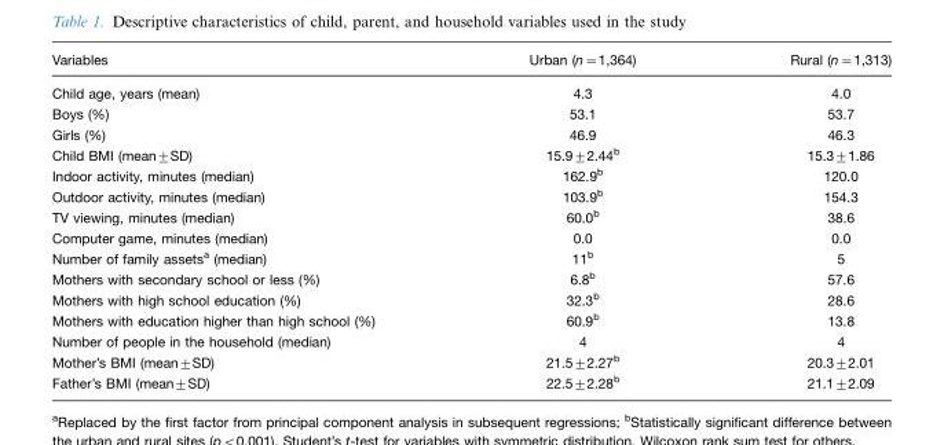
<table><thead><tr><td>Variables</td><td>Urban (n=1,364)</td><td>Rural (n=1,313)</td></tr></thead><tbody><tr><td>Child age, years (mean)</td><td>4.3</td><td>4.0</td></tr><tr><td>Boys (%)</td><td>53.1</td><td>53.7</td></tr><tr><td>Girls (%)</td><td>46.9</td><td>46.3</td></tr><tr><td>Child BMI (mean±SD)</td><td>15.9±2.44<sup>b</sup></td><td>15.3±1.86</td></tr><tr><td>Indoor activity, minutes (median)</td><td>162.9<sup>b</sup></td><td>120.0</td></tr><tr><td>Outdoor activity, minutes (median)</td><td>103.9<sup>b</sup></td><td>154.3</td></tr><tr><td>TV viewing, minutes (median)</td><td>60.0<sup>b</sup></td><td>38.6</td></tr><tr><td>Computer game, minutes (median)</td><td>0.0</td><td>0.0</td></tr><tr><td>Number of family assets<sup>a</sup> (median)</td><td>11<sup>b</sup></td><td>5</td></tr><tr><td>Mothers with secondary school or less (%)</td><td>6.8<sup>b</sup></td><td>57.6</td></tr><tr><td>Mothers with high school education (%)</td><td>32.3<sup>b</sup></td><td>28.6</td></tr><tr><td>Mothers with education higher than high school (%)</td><td>60.9<sup>b</sup></td><td>13.8</td></tr><tr><td>Number of people in the household (median)</td><td>4</td><td>4</td></tr><tr><td>Mother’s BMI (mean±SD)</td><td>21.5±2.27<sup>b</sup></td><td>20.3±2.01</td></tr><tr><td>Father’s BMI (mean±SD)</td><td>22.5±2.28<sup>b</sup></td><td>21.1±2.09</td></tr></tbody></table>